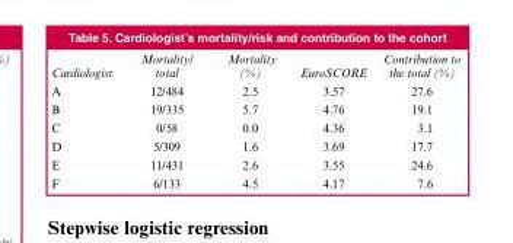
<table><thead><tr><td>Cardiologist</td><td>Mortality/ total</td><td>Mortality (%)</td><td>EuroSCORE</td><td>Contribution to the total (%)</td></tr></thead><tbody><tr><td>A</td><td>12/484</td><td>2.5</td><td>3.57</td><td>27.6</td></tr><tr><td>B</td><td>19/335</td><td>5.7</td><td>4.76</td><td>19.1</td></tr><tr><td>C</td><td>0/58</td><td>0.0</td><td>4.36</td><td>3.1</td></tr><tr><td>D</td><td>5/309</td><td>1.6</td><td>3.69</td><td>17.7</td></tr><tr><td>E</td><td>11/431</td><td>2.6</td><td>3.55</td><td>24.6</td></tr><tr><td>F</td><td>6/133</td><td>4.5</td><td>4.17</td><td>7.6</td></tr></tbody></table>